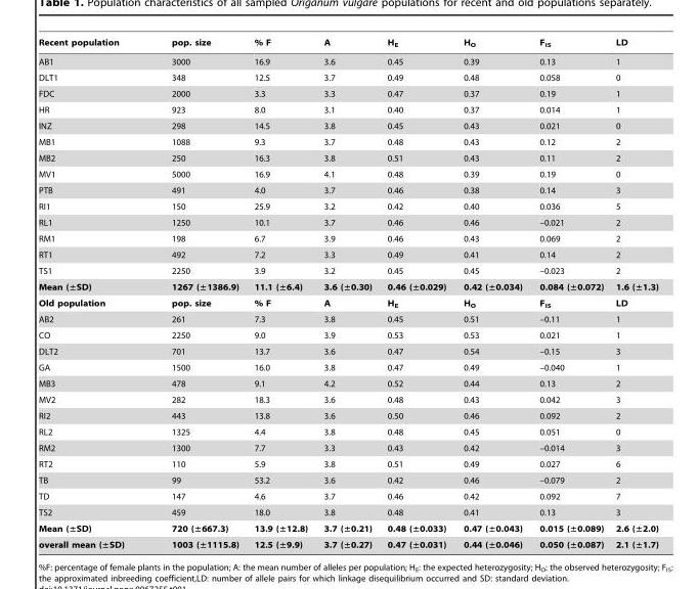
<table><thead><tr><td>Recent population</td><td>pop. size</td><td>% F</td><td>A</td><td>H<sub>E</sub></td><td>H<sub>O</sub></td><td>F<sub>IS</sub></td><td>LD</td></tr></thead><tbody><tr><td>AB1</td><td>3000</td><td>16.9</td><td>3.6</td><td>0.45</td><td>0.39</td><td>0.13</td><td>1</td></tr><tr><td>DLT1</td><td>348</td><td>12.5</td><td>3.7</td><td>0.49</td><td>0.48</td><td>0.058</td><td>0</td></tr><tr><td>FDC</td><td>2000</td><td>3.3</td><td>3.3</td><td>0.47</td><td>0.37</td><td>0.19</td><td>1</td></tr><tr><td>HR</td><td>923</td><td>8.0</td><td>3.1</td><td>0.40</td><td>0.37</td><td>0.014</td><td>1</td></tr><tr><td>INZ</td><td>298</td><td>14.5</td><td>3.8</td><td>0.45</td><td>0.43</td><td>0.021</td><td>0</td></tr><tr><td>MB1</td><td>1088</td><td>9.3</td><td>3.7</td><td>0.48</td><td>0.43</td><td>0.12</td><td>2</td></tr><tr><td>MB2</td><td>250</td><td>16.3</td><td>3.8</td><td>0.51</td><td>0.43</td><td>0.11</td><td>2</td></tr><tr><td>MV1</td><td>5000</td><td>16.9</td><td>4.1</td><td>0.48</td><td>0.39</td><td>0.19</td><td>0</td></tr><tr><td>PTB</td><td>491</td><td>4.0</td><td>3.7</td><td>0.46</td><td>0.38</td><td>0.14</td><td>3</td></tr><tr><td>RI1</td><td>150</td><td>25.9</td><td>3.2</td><td>0.42</td><td>0.40</td><td>0.036</td><td>5</td></tr><tr><td>RL1</td><td>1250</td><td>10.1</td><td>3.7</td><td>0.46</td><td>0.46</td><td>–0.021</td><td>2</td></tr><tr><td>RM1</td><td>198</td><td>6.7</td><td>3.9</td><td>0.46</td><td>0.43</td><td>0.069</td><td>2</td></tr><tr><td>RT1</td><td>492</td><td>7.2</td><td>3.3</td><td>0.49</td><td>0.41</td><td>0.14</td><td>2</td></tr><tr><td>TS1</td><td>2250</td><td>3.9</td><td>3.2</td><td>0.45</td><td>0.45</td><td>–0.023</td><td>2</td></tr><tr><td>Mean (±SD)</td><td>1267 (±1386.9)</td><td>11.1 (±6.4)</td><td>3.6 (±0.30)</td><td>0.46 (±0.029)</td><td>0.42 (±0.034)</td><td>0.084 (±0.072)</td><td>1.6 (±1.3)</td></tr><tr><td>Old population</td><td>pop. size</td><td>% F</td><td>A</td><td>H<sub>E</sub></td><td>H<sub>O</sub></td><td>F<sub>IS</sub></td><td>LD</td></tr><tr><td>AB2</td><td>261</td><td>7.3</td><td>3.8</td><td>0.45</td><td>0.51</td><td>–0.11</td><td>1</td></tr><tr><td>CO</td><td>2250</td><td>9.0</td><td>3.9</td><td>0.53</td><td>0.53</td><td>0.021</td><td>1</td></tr><tr><td>DLT2</td><td>701</td><td>13.7</td><td>3.6</td><td>0.47</td><td>0.54</td><td>–0.15</td><td>3</td></tr><tr><td>GA</td><td>1500</td><td>16.0</td><td>3.8</td><td>0.47</td><td>0.49</td><td>–0.040</td><td>1</td></tr><tr><td>MB3</td><td>478</td><td>9.1</td><td>4.2</td><td>0.52</td><td>0.44</td><td>0.13</td><td>2</td></tr><tr><td>MV2</td><td>282</td><td>18.3</td><td>3.6</td><td>0.48</td><td>0.43</td><td>0.042</td><td>3</td></tr><tr><td>RI2</td><td>443</td><td>13.8</td><td>3.6</td><td>0.50</td><td>0.46</td><td>0.092</td><td>2</td></tr><tr><td>RL2</td><td>1325</td><td>4.4</td><td>3.8</td><td>0.48</td><td>0.45</td><td>0.051</td><td>0</td></tr><tr><td>RM2</td><td>1300</td><td>7.7</td><td>3.3</td><td>0.43</td><td>0.42</td><td>–0.014</td><td>3</td></tr><tr><td>RT2</td><td>110</td><td>5.9</td><td>3.8</td><td>0.51</td><td>0.49</td><td>0.027</td><td>6</td></tr><tr><td>TB</td><td>99</td><td>53.2</td><td>3.6</td><td>0.42</td><td>0.46</td><td>–0.079</td><td>2</td></tr><tr><td>TD</td><td>147</td><td>4.6</td><td>3.7</td><td>0.46</td><td>0.42</td><td>0.092</td><td>7</td></tr><tr><td>TS2</td><td>459</td><td>18.0</td><td>3.8</td><td>0.48</td><td>0.41</td><td>0.13</td><td>3</td></tr><tr><td>Mean (±SD)</td><td>720 (±667.3)</td><td>13.9 (±12.8)</td><td>3.7 (±0.21)</td><td>0.48 (±0.033)</td><td>0.47 (±0.043)</td><td>0.015 (±0.089)</td><td>2.6 (±2.0)</td></tr><tr><td>overall mean (±SD)</td><td>1003 (±1115.8)</td><td>12.5 (±9.9)</td><td>3.7 (±0.27)</td><td>0.47 (±0.031)</td><td>0.44 (±0.046)</td><td>0.050 (±0.087)</td><td>2.1 (±1.7)</td></tr></tbody></table>